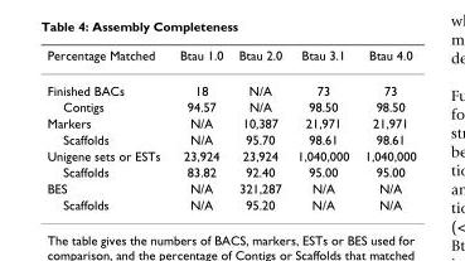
<table><thead><tr><td>Percentage Matched</td><td>Btau 1.0</td><td>Btau 2.0</td><td>Btau 3.1</td><td>Btau 4.0</td></tr></thead><tbody><tr><td>Finished BACs</td><td>18</td><td>N/A</td><td>73</td><td>73</td></tr><tr><td>Contigs</td><td>94.57</td><td>N/A</td><td>98.50</td><td>98.50</td></tr><tr><td>Markers</td><td>N/A</td><td>10,387</td><td>21,971</td><td>21,971</td></tr><tr><td>Scaffolds</td><td>N/A</td><td>95.70</td><td>98.61</td><td>98.61</td></tr><tr><td>Unigene sets or ESTs</td><td>23,924</td><td>23,924</td><td>1,040,000</td><td>1,040,000</td></tr><tr><td>Scaffolds</td><td>83.82</td><td>92.40</td><td>95.00</td><td>95.00</td></tr><tr><td>BES</td><td>N/A</td><td>321,287</td><td>N/A</td><td>N/A</td></tr><tr><td>Scaffolds</td><td>N/A</td><td>95.20</td><td>N/A</td><td>N/A</td></tr></tbody></table>